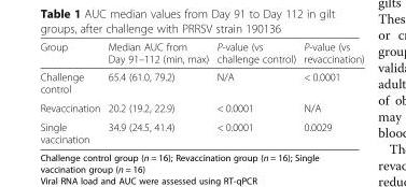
<table><thead><tr><td>Group</td><td>Median AUC from Day 91–112 (min, max)</td><td>P-value (vs challenge control)</td><td>P-value (vs revaccination)</td></tr></thead><tbody><tr><td>Challenge control</td><td>65.4 (61.0, 79.2)</td><td>N/A</td><td>&lt; 0.0001</td></tr><tr><td>Revaccination</td><td>20.2 (19.2, 22.9)</td><td>&lt; 0.0001</td><td>N/A</td></tr><tr><td>Single vaccination</td><td>34.9 (24.5, 41.4)</td><td>&lt; 0.0001</td><td>0.0029</td></tr></tbody></table>